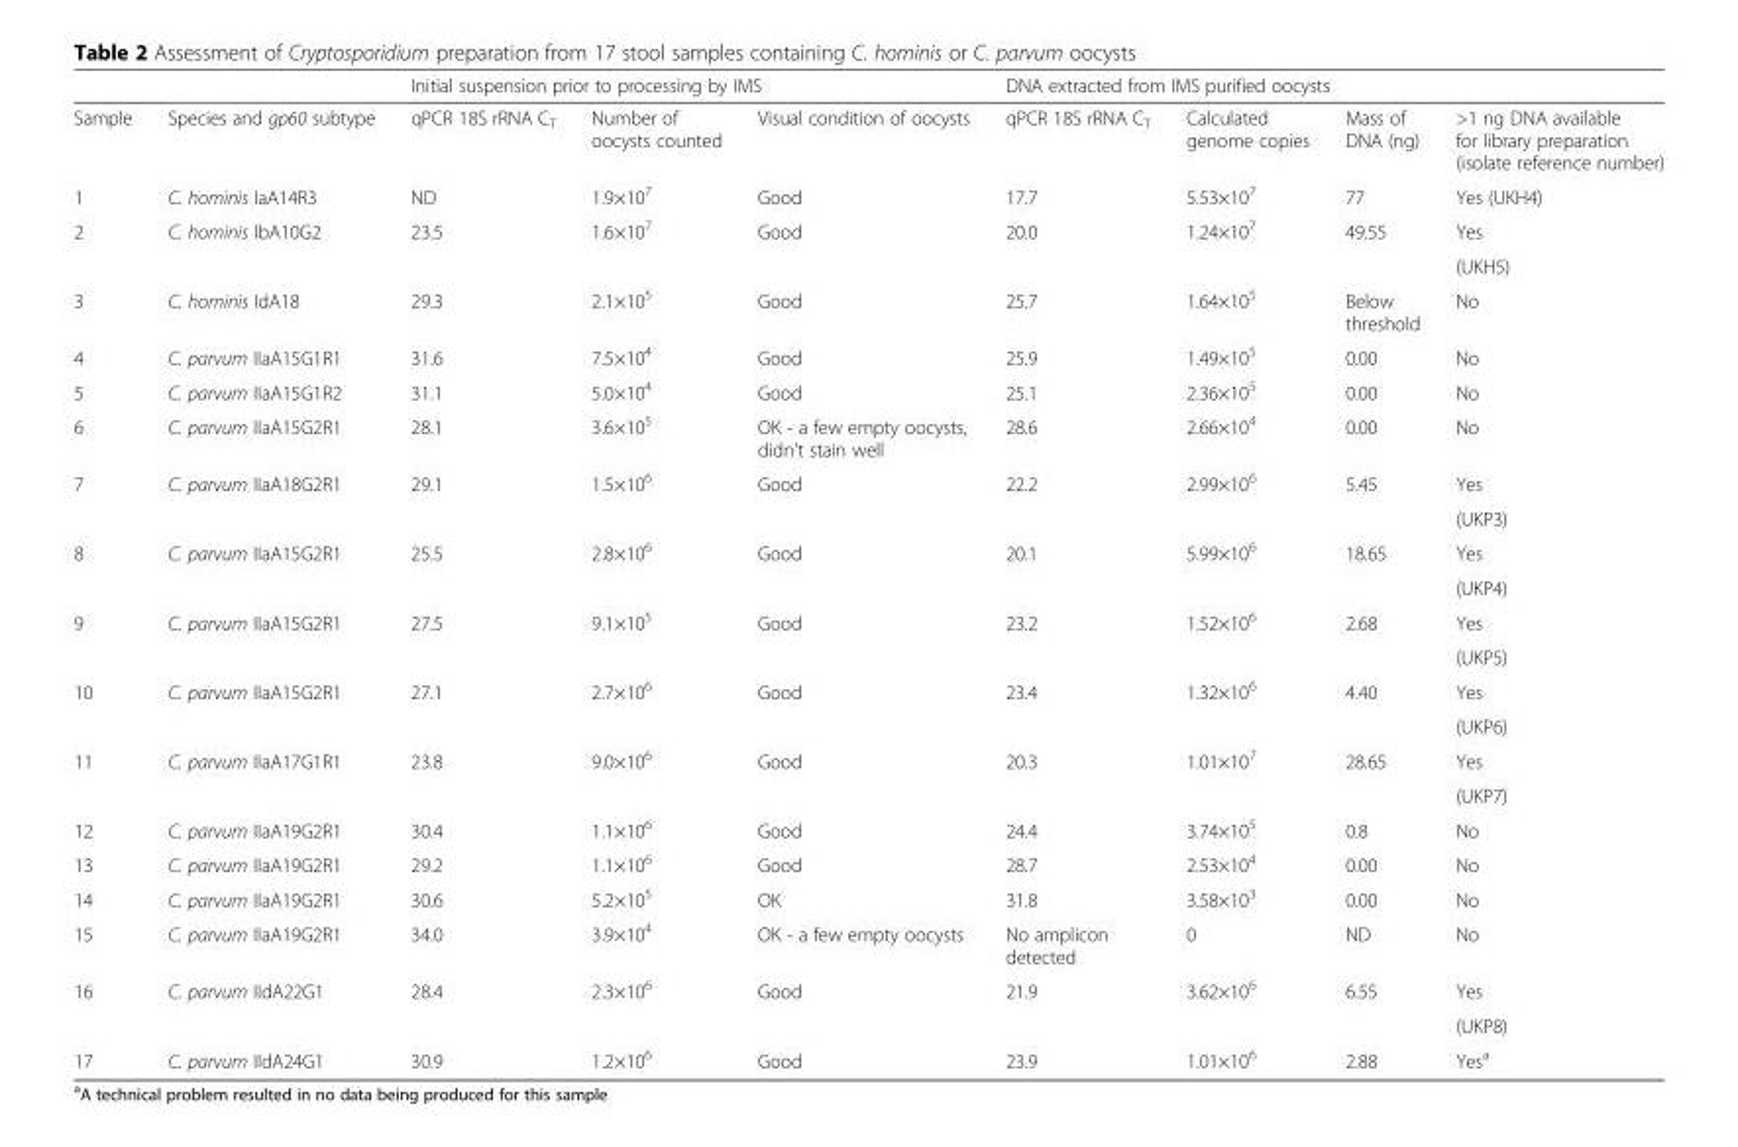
<table><thead><tr><td rowspan="2">Sample</td><td rowspan="2">Species and gp60 subtype</td><td colspan="3">Initial suspension prior to processing by IMS</td><td colspan="4">DNA extracted from IMS purified oocysts</td></tr><tr><td>qPCR 18S rRNA C<sub>T</sub></td><td>Number of oocysts counted</td><td>Visual condition of oocysts</td><td>qPCR 18S rRNA C<sub>T</sub></td><td>Calculated genome copies</td><td>Mass of DNA (ng)</td><td>&gt;1 ng DNA available for library preparation (isolate reference number)</td></tr></thead><tbody><tr><td>1</td><td>C. hominis IaA14R3</td><td>ND</td><td>1.9×10<sup>7</sup></td><td>Good</td><td>17.7</td><td>5.53×10<sup>7</sup></td><td>77</td><td>Yes (UKH4)</td></tr><tr><td rowspan="2">2</td><td rowspan="2">C. hominis IbA10G2</td><td rowspan="2">23.5</td><td rowspan="2">1.6×10<sup>7</sup></td><td rowspan="2">Good</td><td rowspan="2">20.0</td><td rowspan="2">1.24×10<sup>7</sup></td><td rowspan="2">49.55</td><td>Yes</td></tr><tr><td>(UKH5)</td></tr><tr><td>3</td><td>C. hominis IdA18</td><td>29.3</td><td>2.1×10<sup>5</sup></td><td>Good</td><td>25.7</td><td>1.64×10<sup>5</sup></td><td>Below threshold</td><td>No</td></tr><tr><td>4</td><td>C. parvum IIaA15G1R1</td><td>31.6</td><td>7.5×10<sup>4</sup></td><td>Good</td><td>25.9</td><td>1.49×10<sup>5</sup></td><td>0.00</td><td>No</td></tr><tr><td>5</td><td>C. parvum IIaA15G1R2</td><td>31.1</td><td>5.0×10<sup>4</sup></td><td>Good</td><td>25.1</td><td>2.36×10<sup>5</sup></td><td>0.00</td><td>No</td></tr><tr><td>6</td><td>C. parvum IIaA15G2R1</td><td>28.1</td><td>3.6×10<sup>5</sup></td><td>OK - a few empty oocysts, didn&#x27;t stain well</td><td>28.6</td><td>2.66×10<sup>4</sup></td><td>0.00</td><td>No</td></tr><tr><td rowspan="2">7</td><td rowspan="2">C. parvum IIaA18G2R1</td><td rowspan="2">29.1</td><td rowspan="2">1.5×10<sup>6</sup></td><td rowspan="2">Good</td><td rowspan="2">22.2</td><td rowspan="2">2.99×10<sup>6</sup></td><td rowspan="2">5.45</td><td>Yes</td></tr><tr><td>(UKP3)</td></tr><tr><td rowspan="2">8</td><td rowspan="2">C. parvum IIaA15G2R1</td><td rowspan="2">25.5</td><td rowspan="2">2.8×10<sup>6</sup></td><td rowspan="2">Good</td><td rowspan="2">20.1</td><td rowspan="2">5.99×10<sup>6</sup></td><td rowspan="2">18.65</td><td>Yes</td></tr><tr><td>(UKP4)</td></tr><tr><td rowspan="2">9</td><td rowspan="2">C. parvum IIaA15G2R1</td><td rowspan="2">27.5</td><td rowspan="2">9.1×10<sup>5</sup></td><td rowspan="2">Good</td><td rowspan="2">23.2</td><td rowspan="2">1.52×10<sup>6</sup></td><td rowspan="2">2.68</td><td>Yes</td></tr><tr><td>(UKP5)</td></tr><tr><td rowspan="2">10</td><td rowspan="2">C. parvum IIaA15G2R1</td><td rowspan="2">27.1</td><td rowspan="2">2.7×10<sup>6</sup></td><td rowspan="2">Good</td><td rowspan="2">23.4</td><td rowspan="2">1.32×10<sup>6</sup></td><td rowspan="2">4.40</td><td>Yes</td></tr><tr><td>(UKP6)</td></tr><tr><td rowspan="2">11</td><td rowspan="2">C. parvum IIaA17G1R1</td><td rowspan="2">23.8</td><td rowspan="2">9.0×10<sup>6</sup></td><td rowspan="2">Good</td><td rowspan="2">20.3</td><td rowspan="2">1.01×10<sup>7</sup></td><td rowspan="2">28.65</td><td>Yes</td></tr><tr><td>(UKP7)</td></tr><tr><td>12</td><td>C. parvum IIaA19G2R1</td><td>30.4</td><td>1.1×10<sup>6</sup></td><td>Good</td><td>24.4</td><td>3.74×10<sup>5</sup></td><td>0.8</td><td>No</td></tr><tr><td>13</td><td>C. parvum IIaA19G2R1</td><td>29.2</td><td>1.1×10<sup>6</sup></td><td>Good</td><td>28.7</td><td>2.53×10<sup>4</sup></td><td>0.00</td><td>No</td></tr><tr><td>14</td><td>C. parvum IIaA19G2R1</td><td>30.6</td><td>5.2×10<sup>5</sup></td><td>OK</td><td>31.8</td><td>3.58×10<sup>3</sup></td><td>0.00</td><td>No</td></tr><tr><td>15</td><td>C. parvum IIaA19G2R1</td><td>34.0</td><td>3.9×10<sup>4</sup></td><td>OK - a few empty oocysts</td><td>No amplicon detected</td><td>0</td><td>ND</td><td>No</td></tr><tr><td rowspan="2">16</td><td rowspan="2">C. parvum IIdA22G1</td><td rowspan="2">28.4</td><td rowspan="2">2.3×10<sup>6</sup></td><td rowspan="2">Good</td><td rowspan="2">21.9</td><td rowspan="2">3.62×10<sup>6</sup></td><td rowspan="2">6.55</td><td>Yes</td></tr><tr><td>(UKP8)</td></tr><tr><td>17</td><td>C. parvum IIdA24G1</td><td>30.9</td><td>1.2×10<sup>6</sup></td><td>Good</td><td>23.9</td><td>1.01×10<sup>6</sup></td><td>2.88</td><td>Yes<sup>a</sup></td></tr></tbody></table>